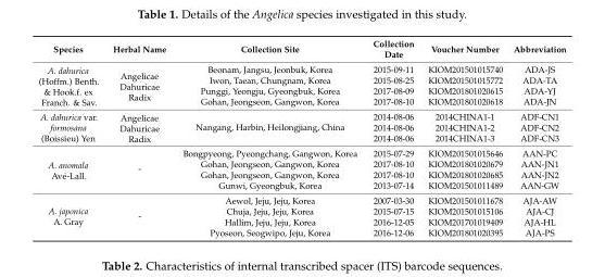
<table><thead><tr><td>Species</td><td>Herbal Name</td><td>Collection Site</td><td>Collection Date</td><td>Voucher Number</td><td>Abbreviation</td></tr></thead><tbody><tr><td rowspan="4">A. dahurica (Hoffm.) Benth. &amp; Hook.f. ex Franch. &amp; Sav.</td><td rowspan="4">Angelicae Dahuricae Radix</td><td>Beonam, Jangsu, Jeonbuk, Korea</td><td>2015-09-11</td><td>KIOM201501015740</td><td>ADA-JS</td></tr><tr><td>Iwon, Taean, Chungnam, Korea</td><td>2015-08-25</td><td>KIOM201501015772</td><td>ADA-TA</td></tr><tr><td>Punggi, Yeongju, Gyeongbuk, Korea</td><td>2017-08-09</td><td>KIOM201801020615</td><td>ADA-YJ</td></tr><tr><td>Gohan, Jeongseon, Gangwon, Korea</td><td>2017-08-10</td><td>KIOM201801020618</td><td>ADA-JN</td></tr><tr><td rowspan="3">A. dahurica var. formosana (Boissieu) Yen</td><td rowspan="3">Angelicae Dahuricae Radix</td><td rowspan="3">Nangang, Harbin, Heilongjiang, China</td><td>2014-08-06</td><td>2014CHINA1-1</td><td>ADF-CN1</td></tr><tr><td>2014-08-06</td><td>2014CHINA1-2</td><td>ADF-CN2</td></tr><tr><td>2014-08-06</td><td>2014CHINA1-3</td><td>ADF-CN3</td></tr><tr><td rowspan="4">A. anomala Avé-Lall.</td><td rowspan="4">-</td><td>Bongpyeong, Pyeongchang, Gangwon, Korea</td><td>2015-07-29</td><td>KIOM201501015646</td><td>AAN-PC</td></tr><tr><td>Gohan, Jeongseon, Gangwon, Korea</td><td>2017-08-10</td><td>KIOM201801020679</td><td>AAN-JN1</td></tr><tr><td>Gohan, Jeongseon, Gangwon, Korea</td><td>2017-08-10</td><td>KIOM201801020685</td><td>AAN-JN2</td></tr><tr><td>Gunwi, Gyeongbuk, Korea</td><td>2013-07-14</td><td>KIOM201501011489</td><td>AAN-GW</td></tr><tr><td rowspan="4">A. japonica A. Gray</td><td rowspan="4">-</td><td>Aewol, Jeju, Jeju, Korea</td><td>2007-03-30</td><td>KIOM201501011678</td><td>AJA-AW</td></tr><tr><td>Chuja, Jeju, Jeju, Korea</td><td>2015-07-15</td><td>KIOM201501015106</td><td>AJA-CJ</td></tr><tr><td>Hallim, Jeju, Jeju, Korea</td><td>2016-12-05</td><td>KIOM201701019409</td><td>AJA-HL</td></tr><tr><td>Pyoseon, Seogwipo, Jeju, Korea</td><td>2016-12-06</td><td>KIOM201801020395</td><td>AJA-PS</td></tr></tbody></table>